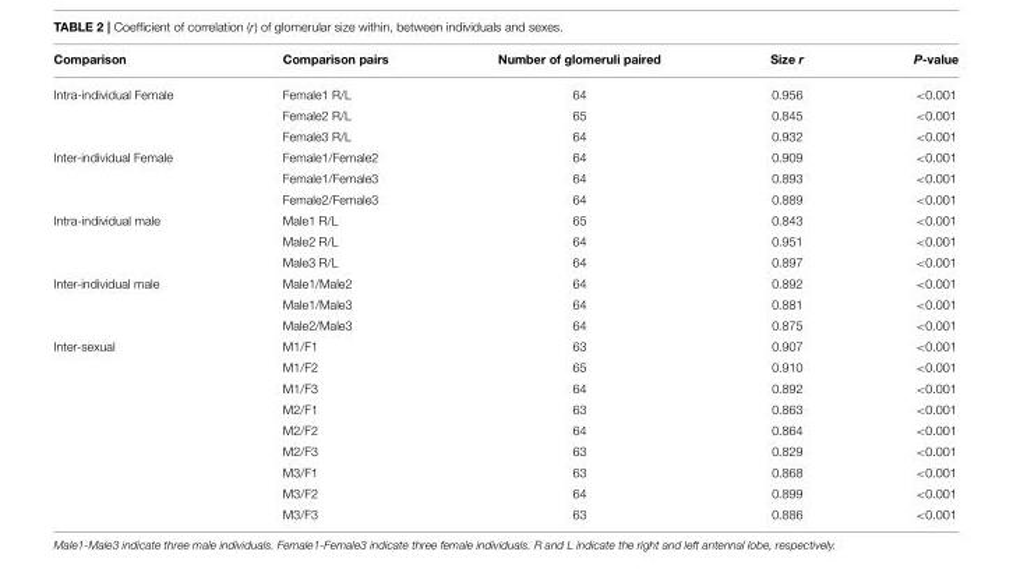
<table><thead><tr><td>Comparison</td><td>Comparison pairs</td><td>Number of glomeruli paired</td><td>Size r</td><td>P-value</td></tr></thead><tbody><tr><td rowspan="3">Intra-individual Female</td><td>Female1 R/L</td><td>64</td><td>0.956</td><td>&lt;0.001</td></tr><tr><td>Female2 R/L</td><td>65</td><td>0.845</td><td>&lt;0.001</td></tr><tr><td>Female3 R/L</td><td>64</td><td>0.932</td><td>&lt;0.001</td></tr><tr><td rowspan="3">Inter-individual Female</td><td>Female1/Female2</td><td>64</td><td>0.909</td><td>&lt;0.001</td></tr><tr><td>Female1/Female3</td><td>64</td><td>0.893</td><td>&lt;0.001</td></tr><tr><td>Female2/Female3</td><td>64</td><td>0.889</td><td>&lt;0.001</td></tr><tr><td rowspan="3">Intra-individual male</td><td>Male1 R/L</td><td>65</td><td>0.843</td><td>&lt;0.001</td></tr><tr><td>Male2 R/L</td><td>64</td><td>0.951</td><td>&lt;0.001</td></tr><tr><td>Male3 R/L</td><td>64</td><td>0.897</td><td>&lt;0.001</td></tr><tr><td rowspan="3">Inter-individual male</td><td>Male1/Male2</td><td>64</td><td>0.892</td><td>&lt;0.001</td></tr><tr><td>Male1/Male3</td><td>64</td><td>0.881</td><td>&lt;0.001</td></tr><tr><td>Male2/Male3</td><td>64</td><td>0.875</td><td>&lt;0.001</td></tr><tr><td rowspan="9">Inter-sexual</td><td>M1/F1</td><td>63</td><td>0.907</td><td>&lt;0.001</td></tr><tr><td>M1/F2</td><td>65</td><td>0.910</td><td>&lt;0.001</td></tr><tr><td>M1/F3</td><td>64</td><td>0.892</td><td>&lt;0.001</td></tr><tr><td>M2/F1</td><td>63</td><td>0.863</td><td>&lt;0.001</td></tr><tr><td>M2/F2</td><td>64</td><td>0.864</td><td>&lt;0.001</td></tr><tr><td>M2/F3</td><td>63</td><td>0.829</td><td>&lt;0.001</td></tr><tr><td>M3/F1</td><td>63</td><td>0.868</td><td>&lt;0.001</td></tr><tr><td>M3/F2</td><td>64</td><td>0.899</td><td>&lt;0.001</td></tr><tr><td>M3/F3</td><td>63</td><td>0.886</td><td>&lt;0.001</td></tr></tbody></table>